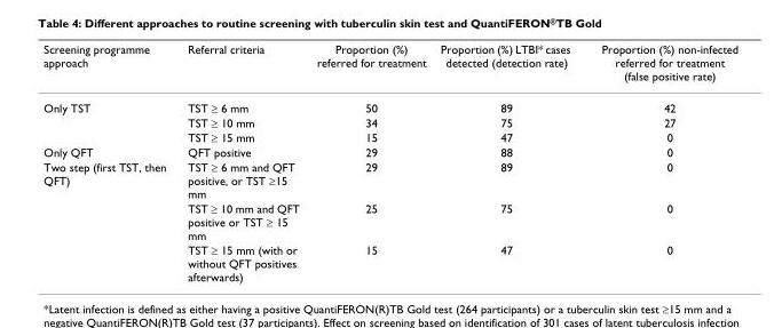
<table><thead><tr><td>Screening programme approach</td><td>Referral criteria</td><td>Proportion (%) referred for treatment</td><td>Proportion (%) LTBI* cases detected (detection rate)</td><td>Proportion (%) non-infected referred for treatment (false positive rate)</td></tr></thead><tbody><tr><td rowspan="3">Only TST</td><td>TST ≥ 6 mm</td><td>50</td><td>89</td><td>42</td></tr><tr><td>TST ≥ 10 mm</td><td>34</td><td>75</td><td>27</td></tr><tr><td>TST ≥ 15 mm</td><td>15</td><td>47</td><td>0</td></tr><tr><td>Only QFT</td><td>QFT positive</td><td>29</td><td>88</td><td>0</td></tr><tr><td rowspan="3">Two step (first TST, then QFT)</td><td>TST ≥ 6 mm and QFT positive, or TST ≥15 mm</td><td>29</td><td>89</td><td>0</td></tr><tr><td>TST ≥ 10 mm and QFT positive or TST ≥ 15 mm</td><td>25</td><td>75</td><td>0</td></tr><tr><td>TST ≥ 15 mm (with or without QFT positives afterwards)</td><td>15</td><td>47</td><td>0</td></tr></tbody></table>